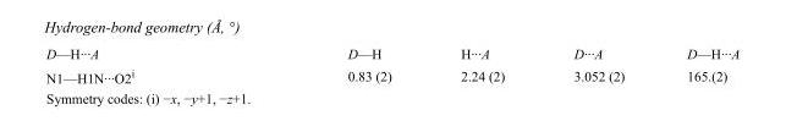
<table><tbody><tr><td>D—H···A</td><td>D—H</td><td>H···A</td><td>D···A</td><td>D—H···A</td></tr><tr><td>N1—H1N···O2<sup>i</sup></td><td>0.83 (2)</td><td>2.24 (2)</td><td>3.052 (2)</td><td>165.(2)</td></tr></tbody></table>